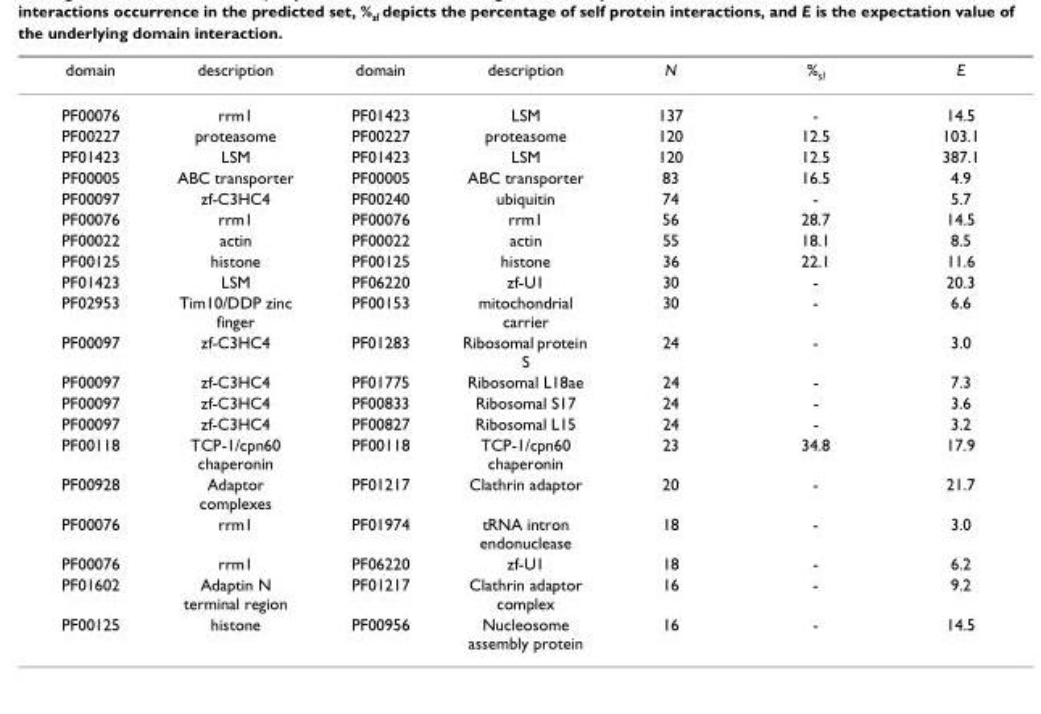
<table><thead><tr><td>domain</td><td>description</td><td>domain</td><td>description</td><td>N</td><td>%<sub>sl</sub></td><td>E</td></tr></thead><tbody><tr><td>PF00076</td><td>rrm1</td><td>PF01423</td><td>LSM</td><td>137</td><td>-</td><td>14.5</td></tr><tr><td>PF00227</td><td>proteasome</td><td>PF00227</td><td>proteasome</td><td>120</td><td>12.5</td><td>103.1</td></tr><tr><td>PF01423</td><td>LSM</td><td>PF01423</td><td>LSM</td><td>120</td><td>12.5</td><td>387.1</td></tr><tr><td>PF00005</td><td>ABC transporter</td><td>PF00005</td><td>ABC transporter</td><td>83</td><td>16.5</td><td>4.9</td></tr><tr><td>PF00097</td><td>zf-C3HC4</td><td>PF00240</td><td>ubiquitin</td><td>74</td><td>-</td><td>5.7</td></tr><tr><td>PF00076</td><td>rrm1</td><td>PF00076</td><td>rrm1</td><td>56</td><td>28.7</td><td>14.5</td></tr><tr><td>PF00022</td><td>actin</td><td>PF00022</td><td>actin</td><td>55</td><td>18.1</td><td>8.5</td></tr><tr><td>PF00125</td><td>histone</td><td>PF00125</td><td>histone</td><td>36</td><td>22.1</td><td>11.6</td></tr><tr><td>PF01423</td><td>LSM</td><td>PF06220</td><td>zf-U1</td><td>30</td><td>-</td><td>20.3</td></tr><tr><td>PF02953</td><td>Tim10/DDP zinc finger</td><td>PF00153</td><td>mitochondrial carrier</td><td>30</td><td>-</td><td>6.6</td></tr><tr><td>PF00097</td><td>zf-C3HC4</td><td>PF01283</td><td>Ribosomal protein S</td><td>24</td><td>-</td><td>3.0</td></tr><tr><td>PF00097</td><td>zf-C3HC4</td><td>PF01775</td><td>Ribosomal L18ae</td><td>24</td><td>-</td><td>7.3</td></tr><tr><td>PF00097</td><td>zf-C3HC4</td><td>PF00833</td><td>Ribosomal S17</td><td>24</td><td>-</td><td>3.6</td></tr><tr><td>PF00097</td><td>zf-C3HC4</td><td>PF00827</td><td>Ribosomal L15</td><td>24</td><td>-</td><td>3.2</td></tr><tr><td>PF00118</td><td>TCP-1/cpn60 chaperonin</td><td>PF00118</td><td>TCP-1/cpn60 chaperonin</td><td>23</td><td>34.8</td><td>17.9</td></tr><tr><td>PF00928</td><td>Adaptor complexes</td><td>PF01217</td><td>Clathrin adaptor</td><td>20</td><td>-</td><td>21.7</td></tr><tr><td>PF00076</td><td>rrm1</td><td>PF01974</td><td>tRNA intron endonuclease</td><td>18</td><td>-</td><td>3.0</td></tr><tr><td>PF00076</td><td>rrm1</td><td>PF06220</td><td>zf-U1</td><td>18</td><td>-</td><td>6.2</td></tr><tr><td>PF01602</td><td>Adaptin N terminal region</td><td>PF01217</td><td>Clathrin adaptor complex</td><td>16</td><td>-</td><td>9.2</td></tr><tr><td>PF00125</td><td>histone</td><td>PF00956</td><td>Nucleosome assembly protein</td><td>16</td><td>-</td><td>14.5</td></tr></tbody></table>